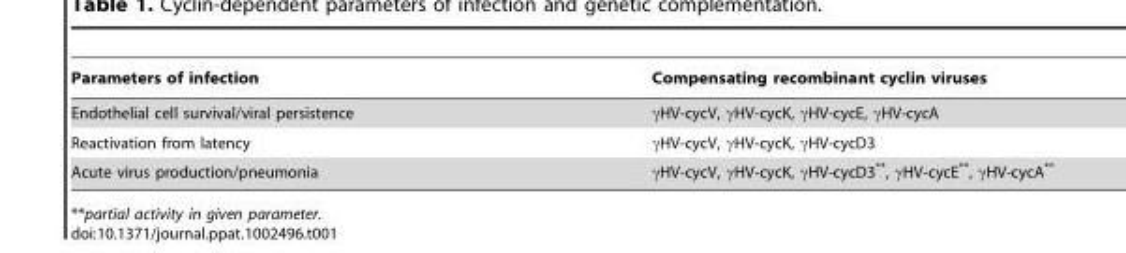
<table><thead><tr><td>Parameters of infection</td><td>Compensating recombinant cyclin viruses</td></tr></thead><tbody><tr><td>Endothelial cell survival/viral persistence</td><td>γHV-cycV, γHV-cycK, γHV-cycE, γHV-cycA</td></tr><tr><td>Reactivation from latency</td><td>γHV-cycV, γHV-cycK, γHV-cycD3</td></tr><tr><td>Acute virus production/pneumonia</td><td>γHV-cycV, γHV-cycK, γHV-cycD3**, γHV-cycE**, γHV-cycA**</td></tr></tbody></table>